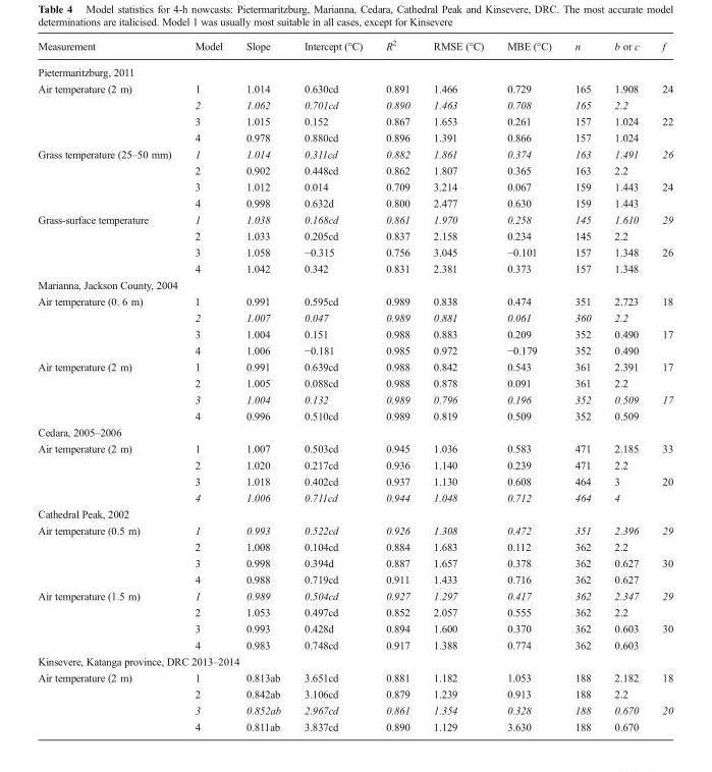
<table><thead><tr><td>Measurement</td><td>Model</td><td>Slope</td><td>Intercept (°C)</td><td>R<sup>2</sup></td><td>RMSE (°C)</td><td>MBE (°C)</td><td>n</td><td>b or c</td><td>f</td></tr></thead><tbody><tr><td colspan="10">Pietermaritzburg, 2011</td></tr><tr><td rowspan="4">Air temperature (2 m)</td><td>1</td><td>1.014</td><td>0.630cd</td><td>0.891</td><td>1.466</td><td>0.729</td><td>165</td><td>1.908</td><td>24</td></tr><tr><td>2</td><td>1.062</td><td>0.701cd</td><td>0.890</td><td>1.463</td><td>0.708</td><td>165</td><td>2.2</td><td></td></tr><tr><td>3</td><td>1.015</td><td>0.152</td><td>0.867</td><td>1.653</td><td>0.261</td><td>157</td><td>1.024</td><td>22</td></tr><tr><td>4</td><td>0.978</td><td>0.880cd</td><td>0.896</td><td>1.391</td><td>0.866</td><td>157</td><td>1.024</td><td></td></tr><tr><td rowspan="4">Grass temperature (25–50 mm)</td><td>1</td><td>1.014</td><td>0.311cd</td><td>0.882</td><td>1.861</td><td>0.374</td><td>163</td><td>1.491</td><td>26</td></tr><tr><td>2</td><td>0.902</td><td>0.448cd</td><td>0.862</td><td>1.807</td><td>0.365</td><td>163</td><td>2.2</td><td></td></tr><tr><td>3</td><td>1.012</td><td>0.014</td><td>0.709</td><td>3.214</td><td>0.067</td><td>159</td><td>1.443</td><td>24</td></tr><tr><td>4</td><td>0.998</td><td>0.632d</td><td>0.800</td><td>2.477</td><td>0.630</td><td>159</td><td>1.443</td><td></td></tr><tr><td rowspan="4">Grass-surface temperature</td><td>1</td><td>1.038</td><td>0.168cd</td><td>0.861</td><td>1.970</td><td>0.258</td><td>145</td><td>1.610</td><td>29</td></tr><tr><td>2</td><td>1.033</td><td>0.205cd</td><td>0.837</td><td>2.158</td><td>0.234</td><td>145</td><td>2.2</td><td></td></tr><tr><td>3</td><td>1.058</td><td>−0.315</td><td>0.756</td><td>3.045</td><td>−0.101</td><td>157</td><td>1.348</td><td>26</td></tr><tr><td>4</td><td>1.042</td><td>0.342</td><td>0.831</td><td>2.381</td><td>0.373</td><td>157</td><td>1.348</td><td></td></tr><tr><td colspan="10">Marianna, Jackson County, 2004</td></tr><tr><td rowspan="4">Air temperature (0. 6 m)</td><td>1</td><td>0.991</td><td>0.595cd</td><td>0.989</td><td>0.838</td><td>0.474</td><td>351</td><td>2.723</td><td>18</td></tr><tr><td>2</td><td>1.007</td><td>0.047</td><td>0.989</td><td>0.881</td><td>0.061</td><td>360</td><td>2.2</td><td></td></tr><tr><td>3</td><td>1.004</td><td>0.151</td><td>0.988</td><td>0.883</td><td>0.209</td><td>352</td><td>0.490</td><td>17</td></tr><tr><td>4</td><td>1.006</td><td>−0.181</td><td>0.985</td><td>0.972</td><td>−0.179</td><td>352</td><td>0.490</td><td></td></tr><tr><td rowspan="4">Air temperature (2 m)</td><td>1</td><td>0.991</td><td>0.639cd</td><td>0.988</td><td>0.842</td><td>0.543</td><td>361</td><td>2.391</td><td>17</td></tr><tr><td>2</td><td>1.005</td><td>0.088cd</td><td>0.988</td><td>0.878</td><td>0.091</td><td>361</td><td>2.2</td><td></td></tr><tr><td>3</td><td>1.004</td><td>0.132</td><td>0.989</td><td>0.796</td><td>0.196</td><td>352</td><td>0.509</td><td>17</td></tr><tr><td>4</td><td>0.996</td><td>0.510cd</td><td>0.989</td><td>0.819</td><td>0.509</td><td>352</td><td>0.509</td><td></td></tr><tr><td colspan="10">Cedara, 2005–2006</td></tr><tr><td rowspan="4">Air temperature (2 m)</td><td>1</td><td>1.007</td><td>0.503cd</td><td>0.945</td><td>1.036</td><td>0.583</td><td>471</td><td>2.185</td><td>33</td></tr><tr><td>2</td><td>1.020</td><td>0.217cd</td><td>0.936</td><td>1.140</td><td>0.239</td><td>471</td><td>2.2</td><td></td></tr><tr><td>3</td><td>1.018</td><td>0.402cd</td><td>0.937</td><td>1.130</td><td>0.608</td><td>464</td><td>3</td><td>20</td></tr><tr><td>4</td><td>1.006</td><td>0.711cd</td><td>0.944</td><td>1.048</td><td>0.712</td><td>464</td><td>4</td><td></td></tr><tr><td colspan="10">Cathedral Peak, 2002</td></tr><tr><td rowspan="4">Air temperature (0.5 m)</td><td>1</td><td>0.993</td><td>0.522cd</td><td>0.926</td><td>1.308</td><td>0.472</td><td>351</td><td>2.396</td><td>29</td></tr><tr><td>2</td><td>1.008</td><td>0.104cd</td><td>0.884</td><td>1.683</td><td>0.112</td><td>362</td><td>2.2</td><td></td></tr><tr><td>3</td><td>0.998</td><td>0.394d</td><td>0.887</td><td>1.657</td><td>0.378</td><td>362</td><td>0.627</td><td>30</td></tr><tr><td>4</td><td>0.988</td><td>0.719cd</td><td>0.911</td><td>1.433</td><td>0.716</td><td>362</td><td>0.627</td><td></td></tr><tr><td rowspan="4">Air temperature (1.5 m)</td><td>1</td><td>0.989</td><td>0.504cd</td><td>0.927</td><td>1.297</td><td>0.417</td><td>362</td><td>2.347</td><td>29</td></tr><tr><td>2</td><td>1.053</td><td>0.497cd</td><td>0.852</td><td>2.057</td><td>0.555</td><td>362</td><td>2.2</td><td></td></tr><tr><td>3</td><td>0.993</td><td>0.428d</td><td>0.894</td><td>1.600</td><td>0.370</td><td>362</td><td>0.603</td><td>30</td></tr><tr><td>4</td><td>0.983</td><td>0.748cd</td><td>0.917</td><td>1.388</td><td>0.774</td><td>362</td><td>0.603</td><td></td></tr><tr><td colspan="10">Kinsevere, Katanga province, DRC 2013–2014</td></tr><tr><td rowspan="4">Air temperature (2 m)</td><td>1</td><td>0.813ab</td><td>3.651cd</td><td>0.881</td><td>1.182</td><td>1.053</td><td>188</td><td>2.182</td><td>18</td></tr><tr><td>2</td><td>0.842ab</td><td>3.106cd</td><td>0.879</td><td>1.239</td><td>0.913</td><td>188</td><td>2.2</td><td></td></tr><tr><td>3</td><td>0.852ab</td><td>2.967cd</td><td>0.861</td><td>1.354</td><td>0.328</td><td>188</td><td>0.670</td><td>20</td></tr><tr><td>4</td><td>0.811ab</td><td>3.837cd</td><td>0.890</td><td>1.129</td><td>3.630</td><td>188</td><td>0.670</td><td></td></tr></tbody></table>